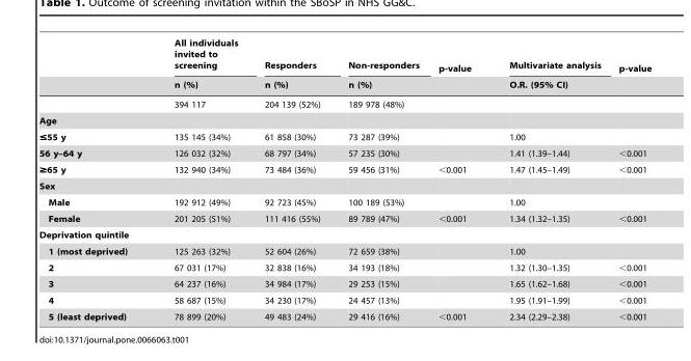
<table><thead><tr><td rowspan="2"></td><td rowspan="2">All individuals invited to screening n (%)</td><td rowspan="2">Responders n (%)</td><td rowspan="2">Non-responders n (%)</td><td rowspan="2">p-value</td><td rowspan="2">Multivariate analysis O.R. (95% CI)</td><td rowspan="2">p-value</td></tr><tr></tr></thead><tbody><tr><td></td><td>394 117</td><td>204 139 (52%)</td><td>189 978 (48%)</td><td></td><td></td><td></td></tr><tr><td colspan="7">Age</td></tr><tr><td>≤55 y</td><td>135 145 (34%)</td><td>61 858 (30%)</td><td>73 287 (39%)</td><td></td><td>1.00</td><td></td></tr><tr><td>56 y–64 y</td><td>126 032 (32%)</td><td>68 797 (34%)</td><td>57 235 (30%)</td><td></td><td>1.41 (1.39–1.44)</td><td>&lt;0.001</td></tr><tr><td>≥65 y</td><td>132 940 (34%)</td><td>73 484 (36%)</td><td>59 456 (31%)</td><td>&lt;0.001</td><td>1.47 (1.45–1.49)</td><td>&lt;0.001</td></tr><tr><td colspan="7">Sex</td></tr><tr><td>Male</td><td>192 912 (49%)</td><td>92 723 (45%)</td><td>100 189 (53%)</td><td></td><td>1.00</td><td></td></tr><tr><td>Female</td><td>201 205 (51%)</td><td>111 416 (55%)</td><td>89 789 (47%)</td><td>&lt;0.001</td><td>1.34 (1.32–1.35)</td><td>&lt;0.001</td></tr><tr><td colspan="7">Deprivation quintile</td></tr><tr><td>1 (most deprived)</td><td>125 263 (32%)</td><td>52 604 (26%)</td><td>72 659 (38%)</td><td></td><td>1.00</td><td></td></tr><tr><td>2</td><td>67 031 (17%)</td><td>32 838 (16%)</td><td>34 193 (18%)</td><td></td><td>1.32 (1.30–1.35)</td><td>&lt;0.001</td></tr><tr><td>3</td><td>64 237 (16%)</td><td>34 984 (17%)</td><td>29 253 (15%)</td><td></td><td>1.65 (1.62–1.68)</td><td>&lt;0.001</td></tr><tr><td>4</td><td>58 687 (15%)</td><td>34 230 (17%)</td><td>24 457 (13%)</td><td></td><td>1.95 (1.91–1.99)</td><td>&lt;0.001</td></tr><tr><td>5 (least deprived)</td><td>78 899 (20%)</td><td>49 483 (24%)</td><td>29 416 (16%)</td><td>&lt;0.001</td><td>2.34 (2.29–2.38)</td><td>&lt;0.001</td></tr></tbody></table>